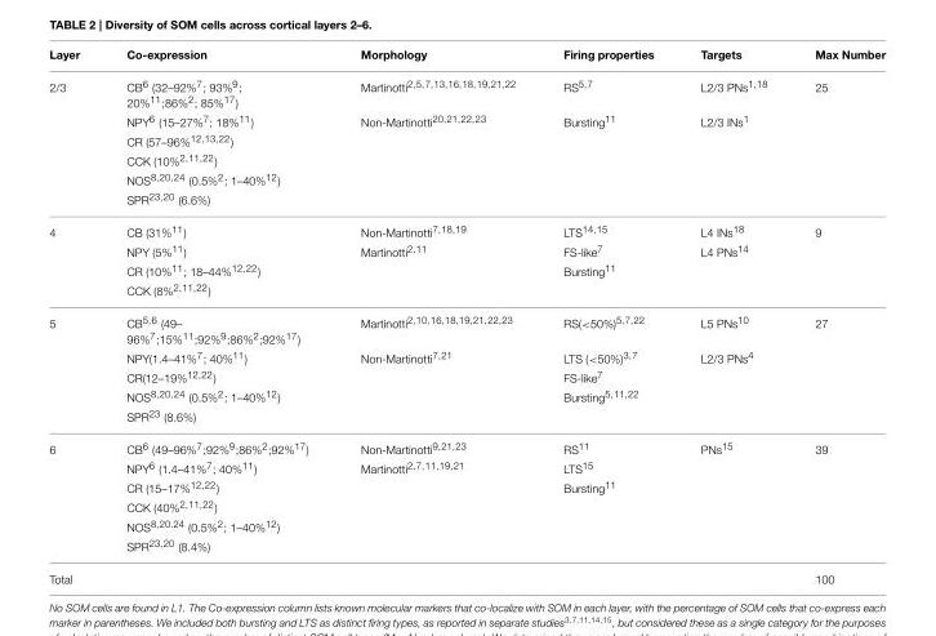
<table><thead><tr><td>Layer</td><td>Co-expression</td><td>Morphology</td><td>Firing properties</td><td>Targets</td><td>Max Number</td></tr></thead><tbody><tr><td rowspan="6">2/3</td><td>CB<sup>6</sup> (32–92%<sup>7</sup>; 93%<sup>9</sup>; 20%<sup>11</sup>;86%<sup>2</sup>; 85%<sup>17</sup>)</td><td>Martinotti<sup>2</sup>,<sup>5</sup>,<sup>7</sup>,<sup>13</sup>,<sup>16</sup>,<sup>18</sup>,<sup>19</sup>,<sup>21</sup>,<sup>22</sup></td><td>RS<sup>5</sup>,<sup>7</sup></td><td>L2/3 PNs<sup>1</sup>,<sup>18</sup></td><td>25</td></tr><tr><td>NPY<sup>6</sup> (15–27%<sup>7</sup>; 18%<sup>11</sup>)</td><td>Non-Martinotti<sup>20</sup>,<sup>21</sup>,<sup>22</sup>,<sup>23</sup></td><td>Bursting<sup>11</sup></td><td>L2/3 INs<sup>1</sup></td><td></td></tr><tr><td>CR (57–96%<sup>12</sup>,<sup>13</sup>,<sup>22</sup>)</td><td></td><td></td><td></td><td></td></tr><tr><td>CCK (10%<sup>2</sup>,<sup>11</sup>,<sup>22</sup>)</td><td></td><td></td><td></td><td></td></tr><tr><td>NOS<sup>8</sup>,<sup>20</sup>,<sup>24</sup> (0.5%<sup>2</sup>; 1–40%<sup>12</sup>)</td><td></td><td></td><td></td><td></td></tr><tr><td>SPR<sup>23</sup>,<sup>20</sup> (6.6%)</td><td></td><td></td><td></td><td></td></tr><tr><td rowspan="4">4</td><td>CB (31%<sup>11</sup>)</td><td>Non-Martinotti<sup>7</sup>,<sup>18</sup>,<sup>19</sup></td><td>LTS<sup>14</sup>,<sup>15</sup></td><td>L4 INs<sup>18</sup></td><td>9</td></tr><tr><td>NPY (5%<sup>11</sup>)</td><td>Martinotti<sup>2</sup>,<sup>11</sup></td><td>FS-like<sup>7</sup></td><td>L4 PNs<sup>14</sup></td><td></td></tr><tr><td>CR (10%<sup>11</sup>; 18–44%<sup>12</sup>,<sup>22</sup>)</td><td></td><td>Bursting<sup>11</sup></td><td></td><td></td></tr><tr><td>CCK (8%<sup>2</sup>,<sup>11</sup>,<sup>22</sup>)</td><td></td><td></td><td></td><td></td></tr><tr><td rowspan="5">5</td><td>CB<sup>5</sup>,<sup>6</sup> (49– 96%<sup>7</sup>;15%<sup>11</sup>;92%<sup>9</sup>;86%<sup>2</sup>;92%<sup>17</sup>)</td><td>Martinotti<sup>2</sup>,<sup>10</sup>,<sup>16</sup>,<sup>18</sup>,<sup>19</sup>,<sup>21</sup>,<sup>22</sup>,<sup>23</sup></td><td>RS(&lt;50%)<sup>5</sup>,<sup>7</sup>,<sup>22</sup></td><td>L5 PNs<sup>10</sup></td><td>27</td></tr><tr><td>NPY(1.4–41%<sup>7</sup>; 40%<sup>11</sup>)</td><td>Non-Martinotti<sup>7</sup>,<sup>21</sup></td><td>LTS (&lt;50%)<sup>3</sup>,<sup>7</sup></td><td>L2/3 PNs<sup>4</sup></td><td></td></tr><tr><td>CR(12–19%<sup>12</sup>,<sup>22</sup>)</td><td></td><td>FS-like<sup>7</sup></td><td></td><td></td></tr><tr><td>NOS<sup>8</sup>,<sup>20</sup>,<sup>24</sup> (0.5%<sup>2</sup>; 1–40%<sup>12</sup>)</td><td></td><td>Bursting<sup>5</sup>,<sup>11</sup>,<sup>22</sup></td><td></td><td></td></tr><tr><td>SPR<sup>23</sup> (8.6%)</td><td></td><td></td><td></td><td></td></tr><tr><td rowspan="6">6</td><td>CB<sup>6</sup> (49–96%<sup>7</sup>;92%<sup>9</sup>;86%<sup>2</sup>;92%<sup>17</sup>)</td><td>Non-Martinotti<sup>9</sup>,<sup>21</sup>,<sup>23</sup></td><td>RS<sup>11</sup></td><td>PNs<sup>15</sup></td><td>39</td></tr><tr><td>NPY<sup>6</sup> (1.4–41%<sup>7</sup>; 40%<sup>11</sup>)</td><td>Martinotti<sup>2</sup>,<sup>7</sup>,<sup>11</sup>,<sup>19</sup>,<sup>21</sup></td><td>LTS<sup>15</sup></td><td></td><td></td></tr><tr><td>CR (15–17%<sup>12</sup>,<sup>22</sup>)</td><td></td><td>Bursting<sup>11</sup></td><td></td><td></td></tr><tr><td>CCK (40%<sup>2</sup>,<sup>11</sup>,<sup>22</sup>)</td><td></td><td></td><td></td><td></td></tr><tr><td>NOS<sup>8</sup>,<sup>20</sup>.<sup>24</sup> (0.5%<sup>2</sup>; 1–40%<sup>12</sup>)</td><td></td><td></td><td></td><td></td></tr><tr><td>SPR<sup>23</sup>,<sup>20</sup> (8.4%)</td><td></td><td></td><td></td><td></td></tr><tr><td>Total</td><td></td><td></td><td></td><td></td><td>100</td></tr></tbody></table>